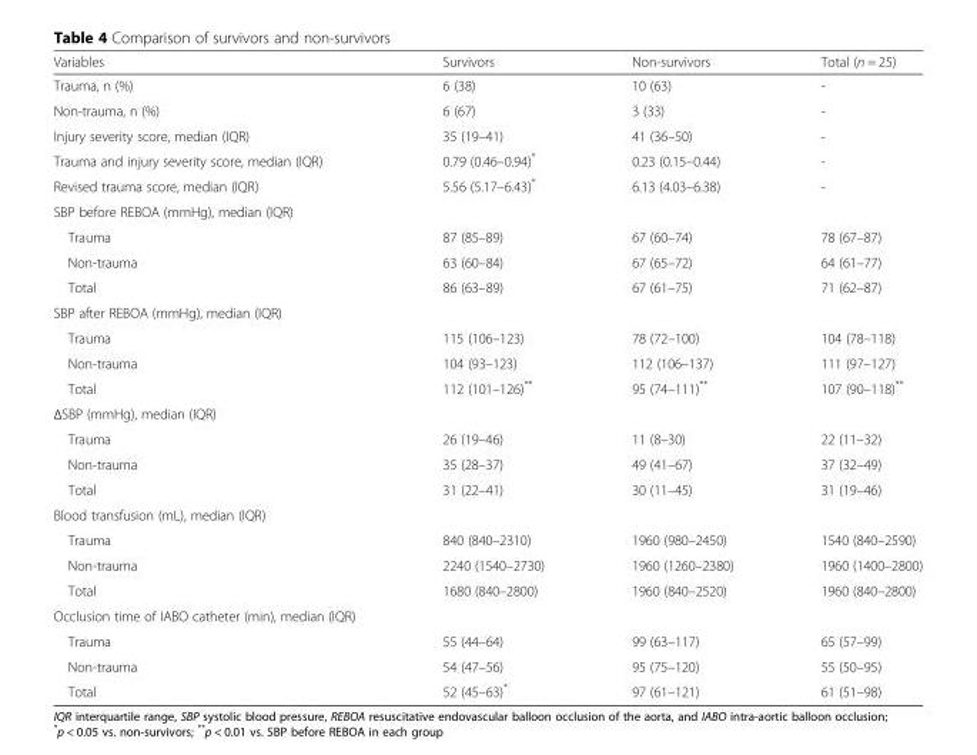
<table><thead><tr><td>Variables</td><td>Survivors</td><td>Non-survivors</td><td>Total (n = 25)</td></tr></thead><tbody><tr><td>Trauma, n (%)</td><td>6 (38)</td><td>10 (63)</td><td>-</td></tr><tr><td>Non-trauma, n (%)</td><td>6 (67)</td><td>3 (33)</td><td>-</td></tr><tr><td>Injury severity score, median (IQR)</td><td>35 (19–41)</td><td>41 (36–50)</td><td>-</td></tr><tr><td>Trauma and injury severity score, median (IQR)</td><td>0.79 (0.46–0.94)*</td><td>0.23 (0.15–0.44)</td><td>-</td></tr><tr><td>Revised trauma score, median (IQR)</td><td>5.56 (5.17–6.43)*</td><td>6.13 (4.03–6.38)</td><td>-</td></tr><tr><td colspan="4">SBP before REBOA (mmHg), median (IQR)</td></tr><tr><td>Trauma</td><td>87 (85–89)</td><td>67 (60–74)</td><td>78 (67–87)</td></tr><tr><td>Non-trauma</td><td>63 (60–84)</td><td>67 (65–72)</td><td>64 (61–77)</td></tr><tr><td>Total</td><td>86 (63–89)</td><td>67 (61–75)</td><td>71 (62–87)</td></tr><tr><td colspan="4">SBP after REBOA (mmHg), median (IQR)</td></tr><tr><td>Trauma</td><td>115 (106–123)</td><td>78 (72–100)</td><td>104 (78–118)</td></tr><tr><td>Non-trauma</td><td>104 (93–123)</td><td>112 (106–137)</td><td>111 (97–127)</td></tr><tr><td>Total</td><td>112 (101–126)**</td><td>95 (74–111)**</td><td>107 (90–118)**</td></tr><tr><td colspan="4">ΔSBP (mmHg), median (IQR)</td></tr><tr><td>Trauma</td><td>26 (19–46)</td><td>11 (8–30)</td><td>22 (11–32)</td></tr><tr><td>Non-trauma</td><td>35 (28–37)</td><td>49 (41–67)</td><td>37 (32–49)</td></tr><tr><td>Total</td><td>31 (22–41)</td><td>30 (11–45)</td><td>31 (19–46)</td></tr><tr><td colspan="4">Blood transfusion (mL), median (IQR)</td></tr><tr><td>Trauma</td><td>840 (840–2310)</td><td>1960 (980–2450)</td><td>1540 (840–2590)</td></tr><tr><td>Non-trauma</td><td>2240 (1540–2730)</td><td>1960 (1260–2380)</td><td>1960 (1400–2800)</td></tr><tr><td>Total</td><td>1680 (840–2800)</td><td>1960 (840–2520)</td><td>1960 (840–2800)</td></tr><tr><td colspan="4">Occlusion time of IABO catheter (min), median (IQR)</td></tr><tr><td>Trauma</td><td>55 (44–64)</td><td>99 (63–117)</td><td>65 (57–99)</td></tr><tr><td>Non-trauma</td><td>54 (47–56)</td><td>95 (75–120)</td><td>55 (50–95)</td></tr><tr><td>Total</td><td>52 (45–63)*</td><td>97 (61–121)</td><td>61 (51–98)</td></tr></tbody></table>